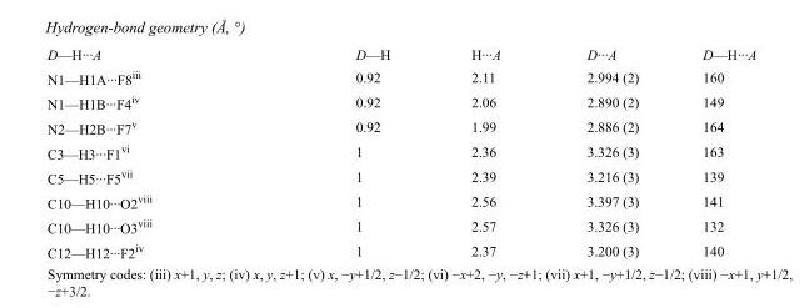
<table><tbody><tr><td>D—H···A</td><td>D—H</td><td>H···A</td><td>D···A</td><td>D—H···A</td></tr><tr><td>N1—H1A···F8<sup>iii</sup></td><td>0.92</td><td>2.11</td><td>2.994 (2)</td><td>160</td></tr><tr><td>N1—H1B···F4<sup>iv</sup></td><td>0.92</td><td>2.06</td><td>2.890 (2)</td><td>149</td></tr><tr><td>N2—H2B···F7<sup>v</sup></td><td>0.92</td><td>1.99</td><td>2.886 (2)</td><td>164</td></tr><tr><td>C3—H3···F1<sup>vi</sup></td><td>1</td><td>2.36</td><td>3.326 (3)</td><td>163</td></tr><tr><td>C5—H5···F5<sup>vii</sup></td><td>1</td><td>2.39</td><td>3.216 (3)</td><td>139</td></tr><tr><td>C10—H10···O2<sup>viii</sup></td><td>1</td><td>2.56</td><td>3.397 (3)</td><td>141</td></tr><tr><td>C10—H10···O3<sup>viii</sup></td><td>1</td><td>2.57</td><td>3.326 (3)</td><td>132</td></tr><tr><td>C12—H12···F2<sup>iv</sup></td><td>1</td><td>2.37</td><td>3.200 (3)</td><td>140</td></tr></tbody></table>